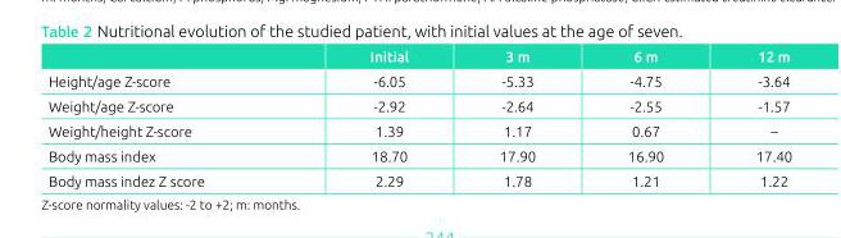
<table><thead><tr><td></td><td>Initial</td><td>3 m</td><td>6 m</td><td>12 m</td></tr></thead><tbody><tr><td>Height/age Z-score</td><td>-6.05</td><td>-5.33</td><td>-4.75</td><td>-3.64</td></tr><tr><td>Weight/age Z-score</td><td>-2.92</td><td>-2.64</td><td>-2.55</td><td>-1.57</td></tr><tr><td>Weight/height Z-score</td><td>1.39</td><td>1.17</td><td>0.67</td><td>–</td></tr><tr><td>Body mass index</td><td>18.70</td><td>17.90</td><td>16.90</td><td>17.40</td></tr><tr><td>Body mass indez Z score</td><td>2.29</td><td>1.78</td><td>1.21</td><td>1.22</td></tr></tbody></table>